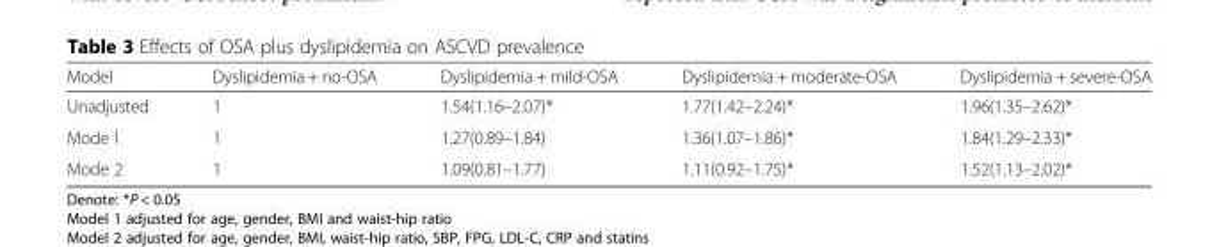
<table><thead><tr><td>Model</td><td>Dyslipidemia + no-OSA</td><td>Dyslipidemia + mild-OSA</td><td>Dyslipidemia + moderate-OSA</td><td>Dyslipidemia + severe-OSA</td></tr></thead><tbody><tr><td>Unadjusted</td><td>1</td><td>1.54(1.16–2.07)*</td><td>1.77(1.42–2.24)*</td><td>1.96(1.35–2.62)*</td></tr><tr><td>Mode l</td><td>1</td><td>1.27(0.89–1.84)</td><td>1.36(1.07–1.86)*</td><td>1.84(1.29–2.33)*</td></tr><tr><td>Mode 2</td><td>1</td><td>1.09(0.81–1.77)</td><td>1.11(0.92–1.75)*</td><td>1.52(1.13–2.02)*</td></tr></tbody></table>